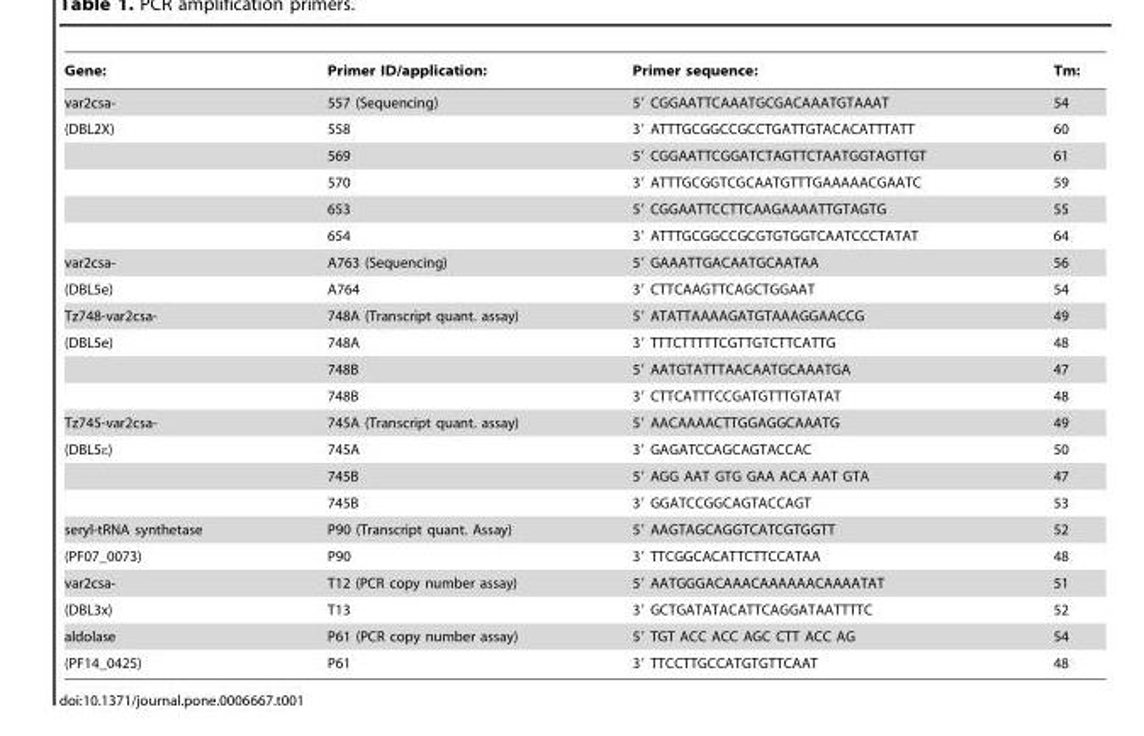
<table><thead><tr><td>Gene:</td><td>Primer ID/application:</td><td>Primer sequence:</td><td>Tm:</td></tr></thead><tbody><tr><td>var2csa-</td><td>557 (Sequencing)</td><td>5′ CGGAATTCAAATGCGACAAATGTAAAT</td><td>54</td></tr><tr><td rowspan="5">(DBL2X)</td><td>558</td><td>3′ ATTTGCGGCCGCCTGATTGTACACATTTATT</td><td>60</td></tr><tr><td>569</td><td>5′ CGGAATTCGGATCTAGTTCTAATGGTAGTTGT</td><td>61</td></tr><tr><td>570</td><td>3′ ATTTGCGGTCGCAATGTTTGAAAAACGAATC</td><td>59</td></tr><tr><td>653</td><td>5′ CGGAATTCCTTCAAGAAAATTGTAGTG</td><td>55</td></tr><tr><td>654</td><td>3′ ATTTGCGGCCGCGTGTGGTCAATCCCTATAT</td><td>64</td></tr><tr><td>var2csa-</td><td>A763 (Sequencing)</td><td>5′ GAAATTGACAATGCAATAA</td><td>56</td></tr><tr><td>(DBL5e)</td><td>A764</td><td>3′ CTTCAAGTTCAGCTGGAAT</td><td>54</td></tr><tr><td>Tz748-var2csa-</td><td>748A (Transcript quant. assay)</td><td>5′ ATATTAAAAGATGTAAAGGAACCG</td><td>49</td></tr><tr><td rowspan="3">(DBL5e)</td><td>748A</td><td>3′ TTTCTTTTTCGTTGTCTTCATTG</td><td>48</td></tr><tr><td>748B</td><td>5′ AATGTATTTAACAATGCAAATGA</td><td>47</td></tr><tr><td>748B</td><td>3′ CTTCATTTCCGATGTTTGTATAT</td><td>48</td></tr><tr><td>Tz745-var2csa-</td><td>745A (Transcript quant. assay)</td><td>5′ AACAAAACTTGGAGGCAAATG</td><td>49</td></tr><tr><td rowspan="3">(DBL5ε)</td><td>745A</td><td>3′ GAGATCCAGCAGTACCAC</td><td>50</td></tr><tr><td>745B</td><td>5′ AGG AAT GTG GAA ACA AAT GTA</td><td>47</td></tr><tr><td>745B</td><td>3′ GGATCCGGCAGTACCAGT</td><td>53</td></tr><tr><td>seryl-tRNA synthetase</td><td>P90 (Transcript quant. Assay)</td><td>5′ AAGTAGCAGGTCATCGTGGTT</td><td>52</td></tr><tr><td>(PF07_0073)</td><td>P90</td><td>3′ TTCGGCACATTCTTCCATAA</td><td>48</td></tr><tr><td>var2csa-</td><td>T12 (PCR copy number assay)</td><td>5′ AATGGGACAAACAAAAAACAAAATAT</td><td>51</td></tr><tr><td>(DBL3x)</td><td>T13</td><td>3′ GCTGATATACATTCAGGATAATTTTC</td><td>52</td></tr><tr><td>aldolase</td><td>P61 (PCR copy number assay)</td><td>5′ TGT ACC ACC AGC CTT ACC AG</td><td>54</td></tr><tr><td>(PF14_0425)</td><td>P61</td><td>3′ TTCCTTGCCATGTGTTCAAT</td><td>48</td></tr></tbody></table>